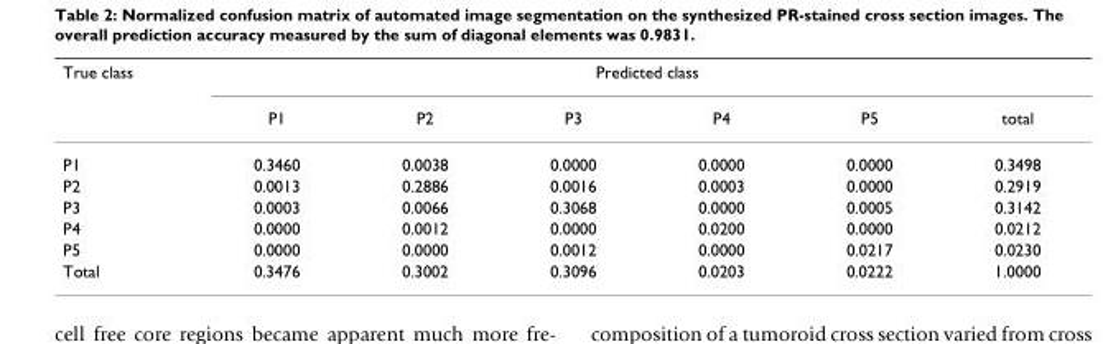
<table><thead><tr><td rowspan="2">True class</td><td colspan="6">Predicted class</td></tr><tr><td>P1</td><td>P2</td><td>P3</td><td>P4</td><td>P5</td><td>total</td></tr></thead><tbody><tr><td>P1</td><td>0.3460</td><td>0.0038</td><td>0.0000</td><td>0.0000</td><td>0.0000</td><td>0.3498</td></tr><tr><td>P2</td><td>0.0013</td><td>0.2886</td><td>0.0016</td><td>0.0003</td><td>0.0000</td><td>0.2919</td></tr><tr><td>P3</td><td>0.0003</td><td>0.0066</td><td>0.3068</td><td>0.0000</td><td>0.0005</td><td>0.3142</td></tr><tr><td>P4</td><td>0.0000</td><td>0.0012</td><td>0.0000</td><td>0.0200</td><td>0.0000</td><td>0.0212</td></tr><tr><td>P5</td><td>0.0000</td><td>0.0000</td><td>0.0012</td><td>0.0000</td><td>0.0217</td><td>0.0230</td></tr><tr><td>Total</td><td>0.3476</td><td>0.3002</td><td>0.3096</td><td>0.0203</td><td>0.0222</td><td>1.0000</td></tr></tbody></table>